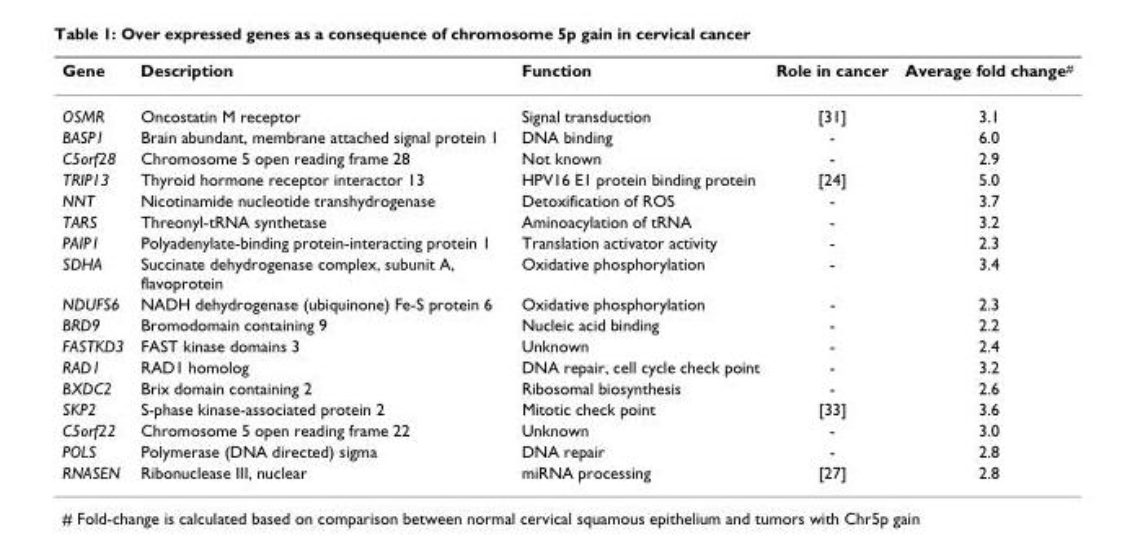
<table><thead><tr><td>Gene</td><td>Description</td><td>Function</td><td>Role in cancer</td><td>Average fold change<sup>#</sup></td></tr></thead><tbody><tr><td>OSMR</td><td>Oncostatin M receptor</td><td>Signal transduction</td><td>[31]</td><td>3.1</td></tr><tr><td>BASP1</td><td>Brain abundant, membrane attached signal protein 1</td><td>DNA binding</td><td>-</td><td>6.0</td></tr><tr><td>C5orf28</td><td>Chromosome 5 open reading frame 28</td><td>Not known</td><td>-</td><td>2.9</td></tr><tr><td>TRIP13</td><td>Thyroid hormone receptor interactor 13</td><td>HPV16 E1 protein binding protein</td><td>[24]</td><td>5.0</td></tr><tr><td>NNT</td><td>Nicotinamide nucleotide transhydrogenase</td><td>Detoxification of ROS</td><td>-</td><td>3.7</td></tr><tr><td>TARS</td><td>Threonyl-tRNA synthetase</td><td>Aminoacylation of tRNA</td><td>-</td><td>3.2</td></tr><tr><td>PAIP1</td><td>Polyadenylate-binding protein-interacting protein 1</td><td>Translation activator activity</td><td>-</td><td>2.3</td></tr><tr><td>SDHA</td><td>Succinate dehydrogenase complex, subunit A, flavoprotein</td><td>Oxidative phosphorylation</td><td>-</td><td>3.4</td></tr><tr><td>NDUFS6</td><td>NADH dehydrogenase (ubiquinone) Fe-S protein 6</td><td>Oxidative phosphorylation</td><td>-</td><td>2.3</td></tr><tr><td>BRD9</td><td>Bromodomain containing 9</td><td>Nucleic acid binding</td><td>-</td><td>2.2</td></tr><tr><td>FASTKD3</td><td>FAST kinase domains 3</td><td>Unknown</td><td>-</td><td>2.4</td></tr><tr><td>RAD1</td><td>RAD1 homolog</td><td>DNA repair, cell cycle check point</td><td>-</td><td>3.2</td></tr><tr><td>BXDC2</td><td>Brix domain containing 2</td><td>Ribosomal biosynthesis</td><td>-</td><td>2.6</td></tr><tr><td>SKP2</td><td>S-phase kinase-associated protein 2</td><td>Mitotic check point</td><td>[33]</td><td>3.6</td></tr><tr><td>C5orf22</td><td>Chromosome 5 open reading frame 22</td><td>Unknown</td><td>-</td><td>3.0</td></tr><tr><td>POLS</td><td>Polymerase (DNA directed) sigma</td><td>DNA repair</td><td>-</td><td>2.8</td></tr><tr><td>RNASEN</td><td>Ribonuclease III, nuclear</td><td>miRNA processing</td><td>[27]</td><td>2.8</td></tr></tbody></table>